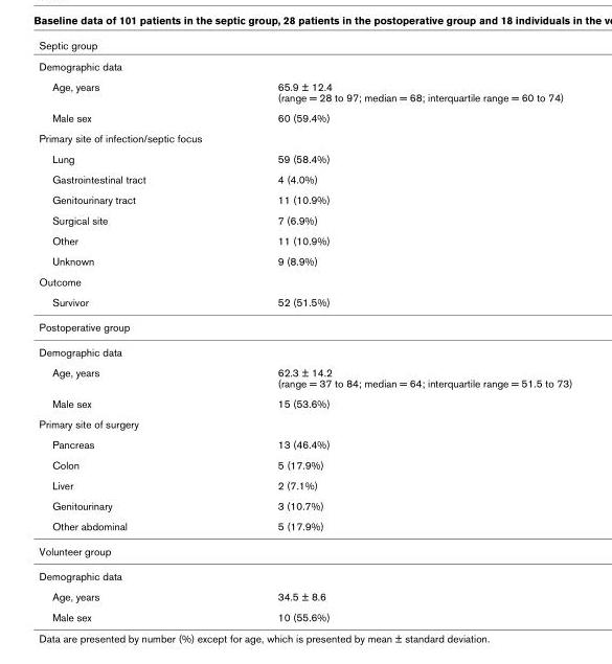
<table><thead><tr><td>Septic group</td><td></td></tr></thead><tbody><tr><td colspan="2">Demographic data</td></tr><tr><td>Age, years</td><td>65.9 ± 12.4 (range = 28 to 97; median = 68; interquartile range = 60 to 74)</td></tr><tr><td>Male sex</td><td>60 (59.4%)</td></tr><tr><td colspan="2">Primary site of infection/septic focus</td></tr><tr><td>Lung</td><td>59 (58.4%)</td></tr><tr><td>Gastrointestinal tract</td><td>4 (4.0%)</td></tr><tr><td>Genitourinary tract</td><td>11 (10.9%)</td></tr><tr><td>Surgical site</td><td>7 (6.9%)</td></tr><tr><td>Other</td><td>11 (10.9%)</td></tr><tr><td>Unknown</td><td>9 (8.9%)</td></tr><tr><td colspan="2">Outcome</td></tr><tr><td>Survivor</td><td>52 (51.5%)</td></tr><tr><td colspan="2">Postoperative group</td></tr><tr><td colspan="2">Demographic data</td></tr><tr><td>Age, years</td><td>62.3 ± 14.2 (range = 37 to 84; median = 64; interquartile range = 51.5 to 73)</td></tr><tr><td>Male sex</td><td>15 (53.6%)</td></tr><tr><td colspan="2">Primary site of surgery</td></tr><tr><td>Pancreas</td><td>13 (46.4%)</td></tr><tr><td>Colon</td><td>5 (17.9%)</td></tr><tr><td>Liver</td><td>2 (7.1%)</td></tr><tr><td>Genitourinary</td><td>3 (10.7%)</td></tr><tr><td>Other abdominal</td><td>5 (17.9%)</td></tr><tr><td colspan="2">Volunteer group</td></tr><tr><td colspan="2">Demographic data</td></tr><tr><td>Age, years</td><td>34.5 ± 8.6</td></tr><tr><td>Male sex</td><td>10 (55.6%)</td></tr></tbody></table>